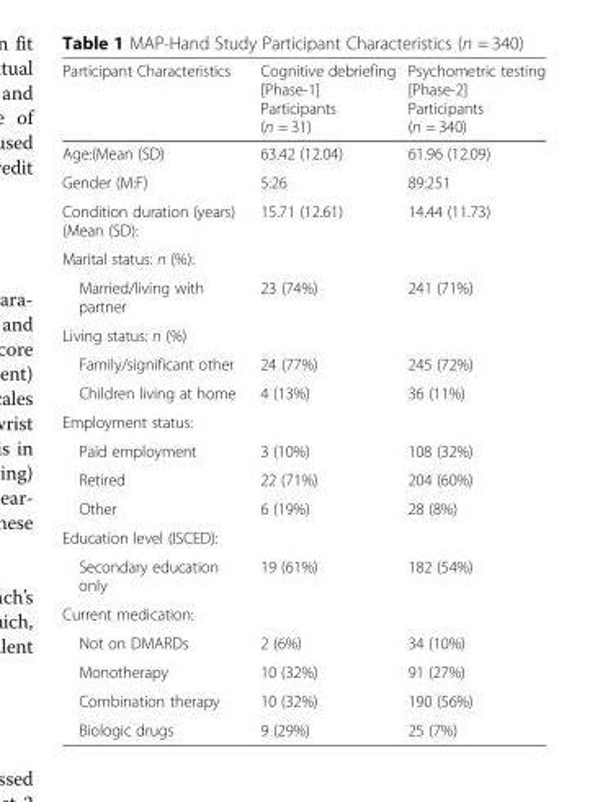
<table><thead><tr><td>Participant Characteristics</td><td>Cognitive debriefing [Phase-1] Participants (n = 31)</td><td>Psychometric testing [Phase-2] Participants (n = 340)</td></tr></thead><tbody><tr><td>Age:(Mean (SD)</td><td>63.42 (12.04)</td><td>61.96 (12.09)</td></tr><tr><td>Gender (M:F)</td><td>5:26</td><td>89:251</td></tr><tr><td>Condition duration (years) (Mean (SD):</td><td>15.71 (12.61)</td><td>14.44 (11.73)</td></tr><tr><td colspan="3">Marital status: n (%):</td></tr><tr><td>Married/living with partner</td><td>23 (74%)</td><td>241 (71%)</td></tr><tr><td colspan="3">Living status: n (%)</td></tr><tr><td>Family/significant other</td><td>24 (77%)</td><td>245 (72%)</td></tr><tr><td>Children living at home</td><td>4 (13%)</td><td>36 (11%)</td></tr><tr><td colspan="3">Employment status:</td></tr><tr><td>Paid employment</td><td>3 (10%)</td><td>108 (32%)</td></tr><tr><td>Retired</td><td>22 (71%)</td><td>204 (60%)</td></tr><tr><td>Other</td><td>6 (19%)</td><td>28 (8%)</td></tr><tr><td colspan="3">Education level (ISCED):</td></tr><tr><td>Secondary education only</td><td>19 (61%)</td><td>182 (54%)</td></tr><tr><td colspan="3">Current medication:</td></tr><tr><td>Not on DMARDs</td><td>2 (6%)</td><td>34 (10%)</td></tr><tr><td>Monotherapy</td><td>10 (32%)</td><td>91 (27%)</td></tr><tr><td>Combination therapy</td><td>10 (32%)</td><td>190 (56%)</td></tr><tr><td>Biologic drugs</td><td>9 (29%)</td><td>25 (7%)</td></tr></tbody></table>